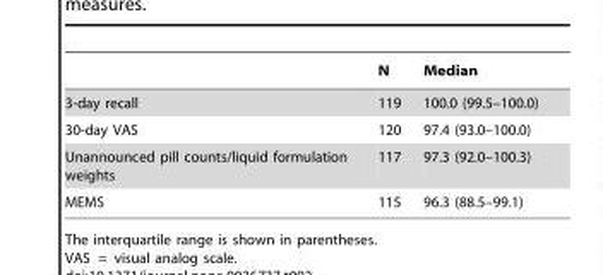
<table><thead><tr><td></td><td>N</td><td>Median</td></tr></thead><tbody><tr><td>3-day recall</td><td>119</td><td>100.0 (99.5–100.0)</td></tr><tr><td>30-day VAS</td><td>120</td><td>97.4 (93.0–100.0)</td></tr><tr><td>Unannounced pill counts/liquid formulation weights</td><td>117</td><td>97.3 (92.0–100.3)</td></tr><tr><td>MEMS</td><td>115</td><td>96.3 (88.5–99.1)</td></tr></tbody></table>